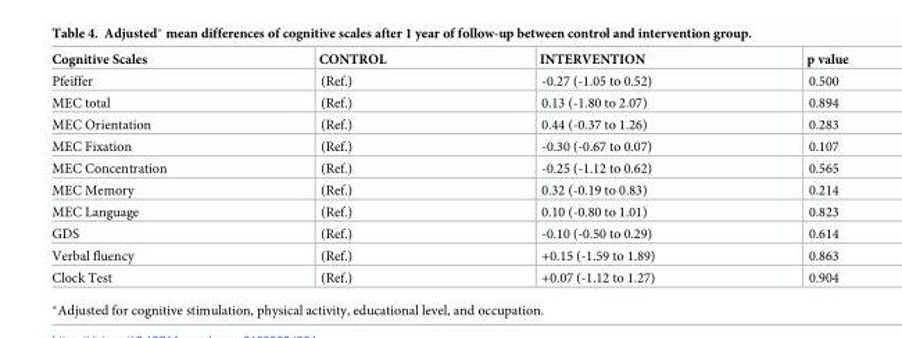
<table><thead><tr><td>Cognitive Scales</td><td>CONTROL</td><td>INTERVENTION</td><td>p value</td></tr></thead><tbody><tr><td>Pfeiffer</td><td>(Ref.)</td><td>-0.27 (-1.05 to 0.52)</td><td>0.500</td></tr><tr><td>MEC total</td><td>(Ref.)</td><td>0.13 (-1.80 to 2.07)</td><td>0.894</td></tr><tr><td>MEC Orientation</td><td>(Ref.)</td><td>0.44 (-0.37 to 1.26)</td><td>0.283</td></tr><tr><td>MEC Fixation</td><td>(Ref.)</td><td>-0.30 (-0.67 to 0.07)</td><td>0.107</td></tr><tr><td>MEC Concentration</td><td>(Ref.)</td><td>-0.25 (-1.12 to 0.62)</td><td>0.565</td></tr><tr><td>MEC Memory</td><td>(Ref.)</td><td>0.32 (-0.19 to 0.83)</td><td>0.214</td></tr><tr><td>MEC Language</td><td>(Ref.)</td><td>0.10 (-0.80 to 1.01)</td><td>0.823</td></tr><tr><td>GDS</td><td>(Ref.)</td><td>-0.10 (-0.50 to 0.29)</td><td>0.614</td></tr><tr><td>Verbal fluency</td><td>(Ref.)</td><td>+0.15 (-1.59 to 1.89)</td><td>0.863</td></tr><tr><td>Clock Test</td><td>(Ref.)</td><td>+0.07 (-1.12 to 1.27)</td><td>0.904</td></tr></tbody></table>